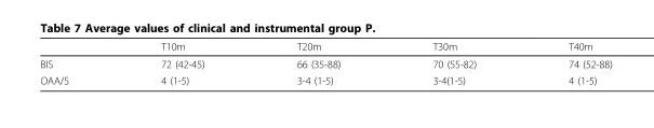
<table><thead><tr><td></td><td>T10m</td><td>T20m</td><td>T30m</td><td>T40m</td></tr></thead><tbody><tr><td>BIS</td><td>72 (42-45)</td><td>66 (35-88)</td><td>70 (55-82)</td><td>74 (52-88)</td></tr><tr><td>OAA/S</td><td>4 (1-5)</td><td>3-4 (1-5)</td><td>3-4(1-5)</td><td>4 (1-5)</td></tr></tbody></table>